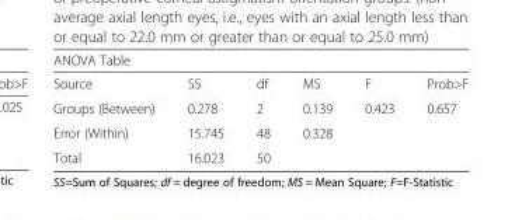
<table><thead><tr><td colspan="6">ANOVA Table</td></tr><tr><td>Source</td><td>SS</td><td>df</td><td>MS</td><td>F</td><td>Prob&gt;F</td></tr></thead><tbody><tr><td>Groups (Between)</td><td>0.278</td><td>2</td><td>0.139</td><td>0.423</td><td>0.657</td></tr><tr><td>Error (Within)</td><td>15.745</td><td>48</td><td>0.328</td><td></td><td></td></tr><tr><td>Total</td><td>16.023</td><td>50</td><td></td><td></td><td></td></tr></tbody></table>